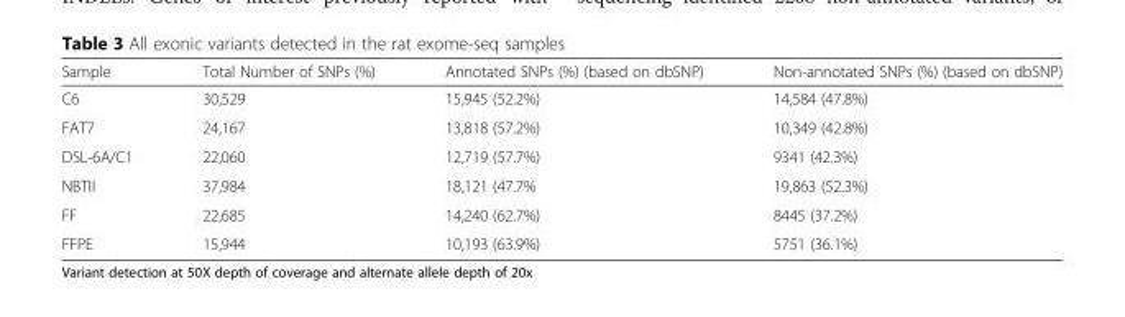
<table><thead><tr><td>Sample</td><td>Total Number of SNPs (%)</td><td>Annotated SNPs (%) (based on dbSNP)</td><td>Non-annotated SNPs (%) (based on dbSNP)</td></tr></thead><tbody><tr><td>C6</td><td>30,529</td><td>15,945 (52.2%)</td><td>14,584 (47.8%)</td></tr><tr><td>FAT7</td><td>24,167</td><td>13,818 (57.2%)</td><td>10,349 (42.8%)</td></tr><tr><td>DSL-6A/C1</td><td>22,060</td><td>12,719 (57.7%)</td><td>9341 (42.3%)</td></tr><tr><td>NBTII</td><td>37,984</td><td>18,121 (47.7%</td><td>19,863 (52.3%)</td></tr><tr><td>FF</td><td>22,685</td><td>14,240 (62.7%)</td><td>8445 (37.2%)</td></tr><tr><td>FFPE</td><td>15,944</td><td>10,193 (63.9%)</td><td>5751 (36.1%)</td></tr></tbody></table>